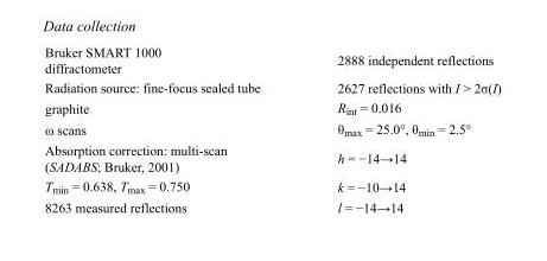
<table><tbody><tr><td>Bruker SMART 1000 diffractometer</td><td>2888 independent reflections</td></tr><tr><td>Radiation source: fine-focus sealed tube</td><td>2627 reflections with I &gt; 2σ(I)</td></tr><tr><td>graphite</td><td>R<sub>int</sub> = 0.016</td></tr><tr><td>ω scans</td><td>θ<sub>max</sub> = 25.0°, θ<sub>min</sub> = 2.5°</td></tr><tr><td>Absorption correction: multi-scan (SADABS; Bruker, 2001)</td><td>h = −14→14</td></tr><tr><td>T<sub>min</sub> = 0.638, T<sub>max</sub> = 0.750</td><td>k = −10→14</td></tr><tr><td>8263 measured reflections</td><td>l = −14→14</td></tr></tbody></table>